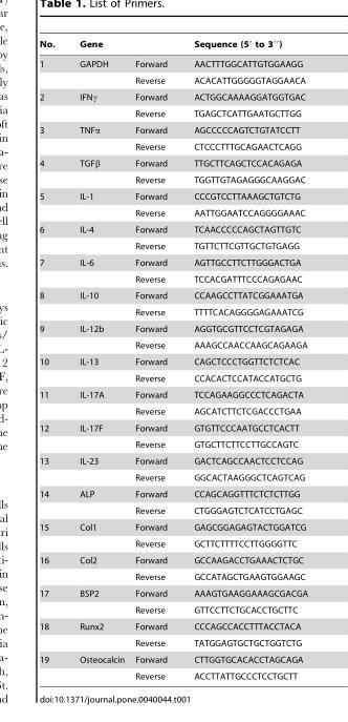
<table><thead><tr><td rowspan="2">No. 1</td><td colspan="2">Gene</td><td rowspan="2">Sequence (5′ to 3′′) AACTTTGGCATTGTGGAAGG</td></tr><tr><td>GAPDH</td><td>Forward</td></tr></thead><tbody><tr><td></td><td></td><td>Reverse</td><td>ACACATTGGGGGTAGGAACA</td></tr><tr><td rowspan="2">2</td><td>IFNγ</td><td>Forward</td><td>ACTGGCAAAAGGATGGTGAC</td></tr><tr><td></td><td>Reverse</td><td>TGAGCTCATTGAATGCTTGG</td></tr><tr><td rowspan="2">3</td><td>TNFα</td><td>Forward</td><td>AGCCCCCAGTCTGTATCCTT</td></tr><tr><td></td><td>Reverse</td><td>CTCCCTTTGCAGAACTCAGG</td></tr><tr><td rowspan="2">4</td><td>TGFβ</td><td>Forward</td><td>TTGCTTCAGCTCCACAGAGA</td></tr><tr><td></td><td>Reverse</td><td>TGGTTGTAGAGGGCAAGGAC</td></tr><tr><td rowspan="2">5</td><td>IL-1</td><td>Forward</td><td>CCCGTCCTTAAAGCTGTCTG</td></tr><tr><td></td><td>Reverse</td><td>AATTGGAATCCAGGGGAAAC</td></tr><tr><td rowspan="2">6</td><td>IL-4</td><td>Forward</td><td>TCAACCCCCAGCTAGTTGTC</td></tr><tr><td></td><td>Reverse</td><td>TGTTCTTCGTTGCTGTGAGG</td></tr><tr><td rowspan="2">7</td><td>IL-6</td><td>Forward</td><td>AGTTGCCTTCTTGGGACTGA</td></tr><tr><td></td><td>Reverse</td><td>TCCACGATTTCCCAGAGAAC</td></tr><tr><td rowspan="2">8</td><td>IL-10</td><td>Forward</td><td>CCAAGCCTTATCGGAAATGA</td></tr><tr><td></td><td>Reverse</td><td>TTTTCACAGGGGAGAAATCG</td></tr><tr><td rowspan="2">9</td><td>IL-12b</td><td>Forward</td><td>AGGTGCGTTCCTCGTAGAGA</td></tr><tr><td></td><td>Reverse</td><td>AAAGCCAACCAAGCAGAAGA</td></tr><tr><td rowspan="2">10</td><td>IL-13</td><td>Forward</td><td>CAGCTCCCTGGTTCTCTCAC</td></tr><tr><td></td><td>Reverse</td><td>CCACACTCCATACCATGCTG</td></tr><tr><td rowspan="2">11</td><td>IL-17A</td><td>Forward</td><td>TCCAGAAGGCCCTCAGACTA</td></tr><tr><td></td><td>Reverse</td><td>AGCATCTTCTCGACCCTGAA</td></tr><tr><td rowspan="2">12</td><td>IL-17F</td><td>Forward</td><td>GTGTTCCCAATGCCTCACTT</td></tr><tr><td></td><td>Reverse</td><td>GTGCTTCTTCCTTGCCAGTC</td></tr><tr><td rowspan="2">13</td><td>IL-23</td><td>Forward</td><td>GACTCAGCCAACTCCTCCAG</td></tr><tr><td></td><td>Reverse</td><td>GGCACTAAGGGCTCAGTCAG</td></tr><tr><td rowspan="2">14</td><td>ALP</td><td>Forward</td><td>CCAGCAGGTTTCTCTCTTGG</td></tr><tr><td></td><td>Reverse</td><td>CTGGGAGTCTCATCCTGAGC</td></tr><tr><td rowspan="2">15</td><td>Col1</td><td>Forward</td><td>GAGCGGAGAGTACTGGATCG</td></tr><tr><td></td><td>Reverse</td><td>GCTTCTTTTCCTTGGGGTTC</td></tr><tr><td rowspan="2">16</td><td>Col2</td><td>Forward</td><td>GCCAAGACCTGAAACTCTGC</td></tr><tr><td></td><td>Reverse</td><td>GCCATAGCTGAAGTGGAAGC</td></tr><tr><td rowspan="2">17</td><td>BSP2</td><td>Forward</td><td>AAAGTGAAGGAAAGCGACGA</td></tr><tr><td></td><td>Reverse</td><td>GTTCCTTCTGCACCTGCTTC</td></tr><tr><td rowspan="2">18</td><td>Runx2</td><td>Forward</td><td>CCCAGCCACCTTTACCTACA</td></tr><tr><td></td><td>Reverse</td><td>TATGGAGTGCTGCTGGTCTG</td></tr><tr><td rowspan="2">19</td><td>Osteocalcin</td><td>Forward</td><td>CTTGGTGCACACCTAGCAGA</td></tr><tr><td></td><td>Reverse</td><td>ACCTTATTGCCCTCCTGCTT</td></tr></tbody></table>